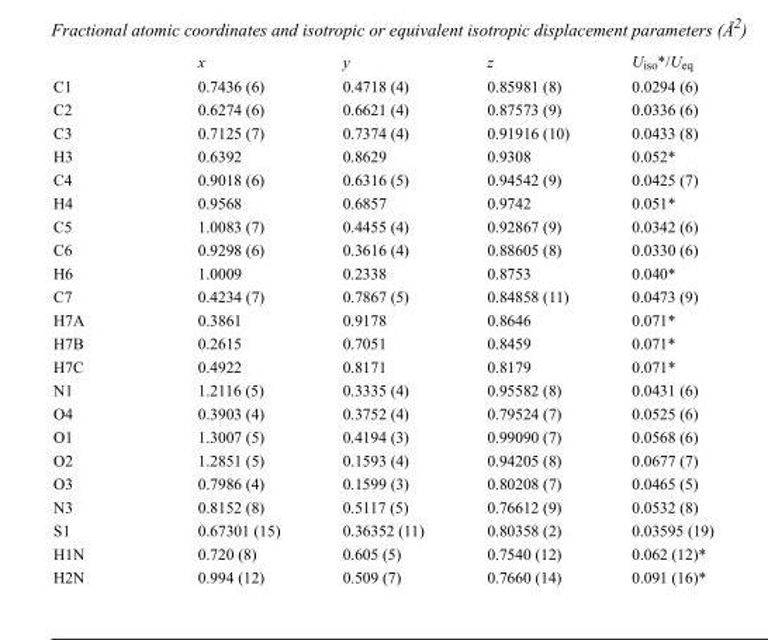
<table><thead><tr><td></td><td>x</td><td>y</td><td>z</td><td>U<sub>iso</sub>*/U<sub>eq</sub></td></tr></thead><tbody><tr><td>C1</td><td>0.7436 (6)</td><td>0.4718 (4)</td><td>0.85981 (8)</td><td>0.0294 (6)</td></tr><tr><td>C2</td><td>0.6274 (6)</td><td>0.6621 (4)</td><td>0.87573 (9)</td><td>0.0336 (6)</td></tr><tr><td>C3</td><td>0.7125 (7)</td><td>0.7374 (4)</td><td>0.91916 (10)</td><td>0.0433 (8)</td></tr><tr><td>H3</td><td>0.6392</td><td>0.8629</td><td>0.9308</td><td>0.052*</td></tr><tr><td>C4</td><td>0.9018 (6)</td><td>0.6316 (5)</td><td>0.94542 (9)</td><td>0.0425 (7)</td></tr><tr><td>H4</td><td>0.9568</td><td>0.6857</td><td>0.9742</td><td>0.051*</td></tr><tr><td>C5</td><td>1.0083 (7)</td><td>0.4455 (4)</td><td>0.92867 (9)</td><td>0.0342 (6)</td></tr><tr><td>C6</td><td>0.9298 (6)</td><td>0.3616 (4)</td><td>0.88605 (8)</td><td>0.0330 (6)</td></tr><tr><td>H6</td><td>1.0009</td><td>0.2338</td><td>0.8753</td><td>0.040*</td></tr><tr><td>C7</td><td>0.4234 (7)</td><td>0.7867 (5)</td><td>0.84858 (11)</td><td>0.0473 (9)</td></tr><tr><td>H7A</td><td>0.3861</td><td>0.9178</td><td>0.8646</td><td>0.071*</td></tr><tr><td>H7B</td><td>0.2615</td><td>0.7051</td><td>0.8459</td><td>0.071*</td></tr><tr><td>H7C</td><td>0.4922</td><td>0.8171</td><td>0.8179</td><td>0.071*</td></tr><tr><td>N1</td><td>1.2116 (5)</td><td>0.3335 (4)</td><td>0.95582 (8)</td><td>0.0431 (6)</td></tr><tr><td>O4</td><td>0.3903 (4)</td><td>0.3752 (4)</td><td>0.79524 (7)</td><td>0.0525 (6)</td></tr><tr><td>O1</td><td>1.3007 (5)</td><td>0.4194 (3)</td><td>0.99090 (7)</td><td>0.0568 (6)</td></tr><tr><td>O2</td><td>1.2851 (5)</td><td>0.1593 (4)</td><td>0.94205 (8)</td><td>0.0677 (7)</td></tr><tr><td>O3</td><td>0.7986 (4)</td><td>0.1599 (3)</td><td>0.80208 (7)</td><td>0.0465 (5)</td></tr><tr><td>N3</td><td>0.8152 (8)</td><td>0.5117 (5)</td><td>0.76612 (9)</td><td>0.0532 (8)</td></tr><tr><td>S1</td><td>0.67301 (15)</td><td>0.36352 (11)</td><td>0.80358 (2)</td><td>0.03595 (19)</td></tr><tr><td>H1N</td><td>0.720 (8)</td><td>0.605 (5)</td><td>0.7540 (12)</td><td>0.062 (12)*</td></tr><tr><td>H2N</td><td>0.994 (12)</td><td>0.509 (7)</td><td>0.7660 (14)</td><td>0.091 (16)*</td></tr></tbody></table>